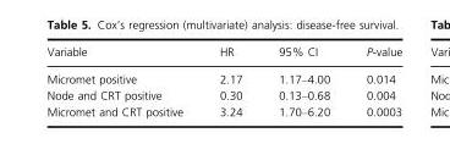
<table><thead><tr><td>Variable</td><td>HR</td><td>95% CI</td><td>P-value</td></tr></thead><tbody><tr><td>Micromet positive</td><td>2.17</td><td>1.17–4.00</td><td>0.014</td></tr><tr><td>Node and CRT positive</td><td>0.30</td><td>0.13–0.68</td><td>0.004</td></tr><tr><td>Micromet and CRT positive</td><td>3.24</td><td>1.70–6.20</td><td>0.0003</td></tr></tbody></table>